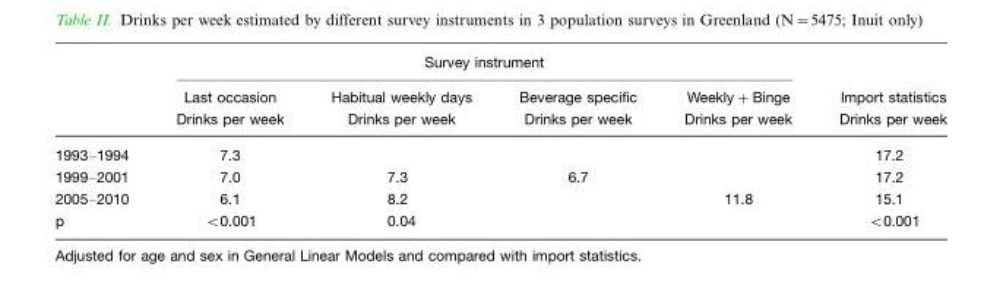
<table><thead><tr><td rowspan="3"></td><td colspan="4">Survey instrument</td><td rowspan="3">Import statistics Drinks per week</td></tr><tr><td rowspan="2">Last occasion Drinks per week</td><td rowspan="2">Habitual weekly days Drinks per week</td><td rowspan="2">Beverage specific Drinks per week</td><td rowspan="2">Weekly+Binge Drinks per week</td></tr><tr></tr></thead><tbody><tr><td>1993–1994</td><td>7.3</td><td></td><td></td><td></td><td>17.2</td></tr><tr><td>1999–2001</td><td>7.0</td><td>7.3</td><td>6.7</td><td></td><td>17.2</td></tr><tr><td>2005–2010</td><td>6.1</td><td>8.2</td><td></td><td>11.8</td><td>15.1</td></tr><tr><td>p</td><td>&lt;0.001</td><td>0.04</td><td></td><td></td><td>&lt;0.001</td></tr></tbody></table>